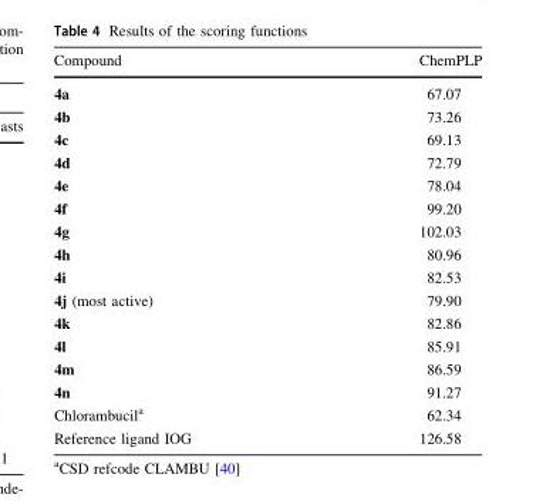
<table><thead><tr><td>Compound</td><td>ChemPLP</td></tr></thead><tbody><tr><td>4a</td><td>67.07</td></tr><tr><td>4b</td><td>73.26</td></tr><tr><td>4c</td><td>69.13</td></tr><tr><td>4d</td><td>72.79</td></tr><tr><td>4e</td><td>78.04</td></tr><tr><td>4f</td><td>99.20</td></tr><tr><td>4g</td><td>102.03</td></tr><tr><td>4h</td><td>80.96</td></tr><tr><td>4i</td><td>82.53</td></tr><tr><td>4j (most active)</td><td>79.90</td></tr><tr><td>4k</td><td>82.86</td></tr><tr><td>4l</td><td>85.91</td></tr><tr><td>4m</td><td>86.59</td></tr><tr><td>4n</td><td>91.27</td></tr><tr><td>Chlorambucil<sup>a</sup></td><td>62.34</td></tr><tr><td>Reference ligand IOG</td><td>126.58</td></tr></tbody></table>